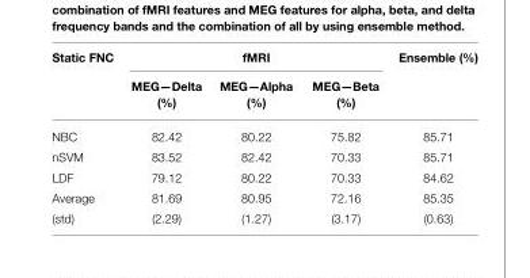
<table><thead><tr><td rowspan="2">Static FNC</td><td colspan="3">fMRI</td><td rowspan="2">Ensemble (%)</td></tr><tr><td>MEG—Delta (%)</td><td>MEG—Alpha (%)</td><td>MEG—Beta (%)</td></tr></thead><tbody><tr><td>NBC</td><td>82.42</td><td>80.22</td><td>75.82</td><td>85.71</td></tr><tr><td>nSVM</td><td>83.52</td><td>82.42</td><td>70.33</td><td>85.71</td></tr><tr><td>LDF</td><td>79.12</td><td>80.22</td><td>70.33</td><td>84.62</td></tr><tr><td>Average</td><td>81.69</td><td>80.95</td><td>72.16</td><td>85.35</td></tr><tr><td>(std)</td><td>(2.29)</td><td>(1.27)</td><td>(3.17)</td><td>(0.63)</td></tr></tbody></table>